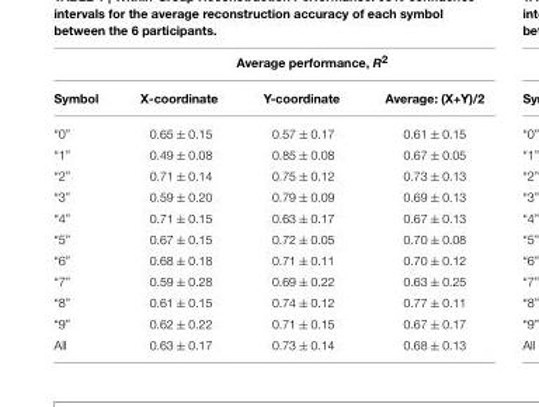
<table><thead><tr><td rowspan="2">Symbol</td><td colspan="3">Average performance, R<sup>2</sup></td></tr><tr><td>X-coordinate</td><td>Y-coordinate</td><td>Average: (X+Y)/2</td></tr></thead><tbody><tr><td>“0”</td><td>0.65 ± 0.15</td><td>0.57 ± 0.17</td><td>0.61 ± 0.15</td></tr><tr><td>“1”</td><td>0.49 ± 0.08</td><td>0.85 ± 0.08</td><td>0.67 ± 0.05</td></tr><tr><td>“2”</td><td>0.71 ± 0.14</td><td>0.75 ± 0.12</td><td>0.73 ± 0.13</td></tr><tr><td>“3”</td><td>0.59 ± 0.20</td><td>0.79 ± 0.09</td><td>0.69 ± 0.13</td></tr><tr><td>“4”</td><td>0.71 ± 0.15</td><td>0.63 ± 0.17</td><td>0.67 ± 0.13</td></tr><tr><td>“5”</td><td>0.67 ± 0.15</td><td>0.72 ± 0.05</td><td>0.70 ± 0.08</td></tr><tr><td>“6”</td><td>0.68 ± 0.18</td><td>0.71 ± 0.11</td><td>0.70 ± 0.12</td></tr><tr><td>“7”</td><td>0.59 ± 0.28</td><td>0.69 ± 0.22</td><td>0.63 ± 0.25</td></tr><tr><td>“8”</td><td>0.61 ± 0.15</td><td>0.74 ± 0.12</td><td>0.77 ± 0.11</td></tr><tr><td>“9”</td><td>0.62 ± 0.22</td><td>0.71 ± 0.15</td><td>0.67 ± 0.17</td></tr><tr><td>All</td><td>0.63 ± 0.17</td><td>0.73 ± 0.14</td><td>0.68 ± 0.13</td></tr></tbody></table>